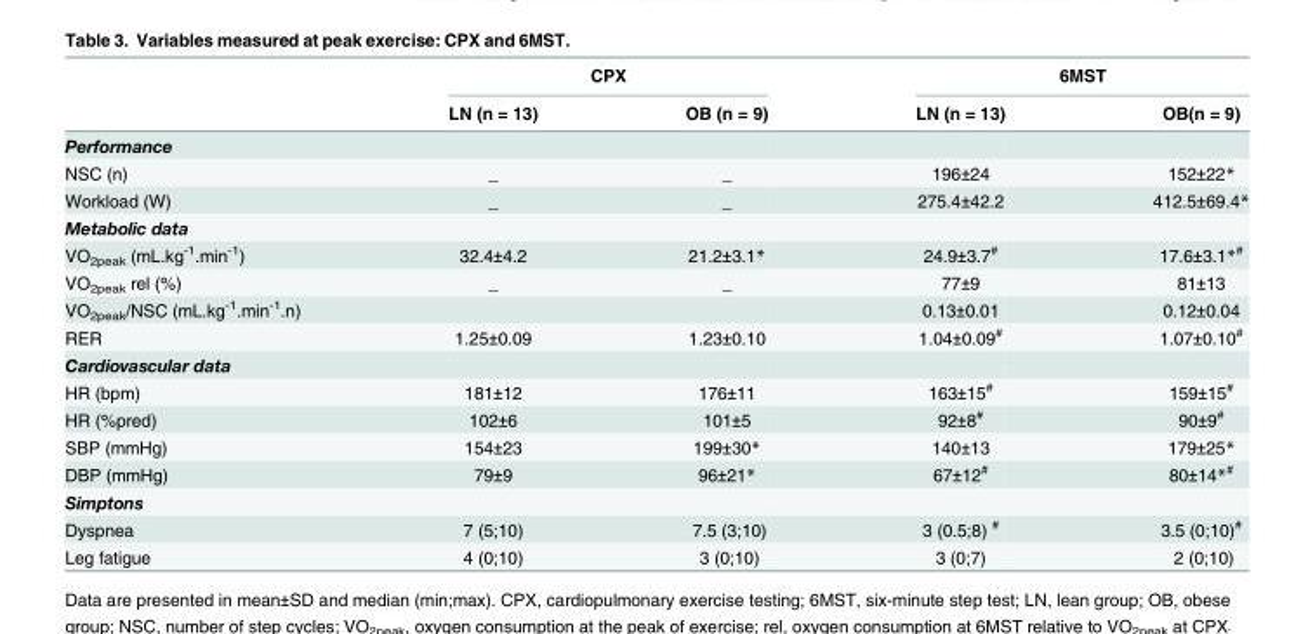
<table><thead><tr><td rowspan="2"></td><td colspan="2">CPX</td><td colspan="2">6MST</td></tr><tr><td>LN (n = 13)</td><td>OB (n = 9)</td><td>LN (n = 13)</td><td>OB(n = 9)</td></tr></thead><tbody><tr><td colspan="5">Performance</td></tr><tr><td>NSC (n)</td><td>_</td><td>_</td><td>196±24</td><td>152±22*</td></tr><tr><td>Workload (W)</td><td>_</td><td>_</td><td>275.4±42.2</td><td>412.5±69.4*</td></tr><tr><td colspan="5">Metabolic data</td></tr><tr><td>VO<sub>2peak</sub> (mL.kg<sup>-1</sup>.min<sup>-1</sup>)</td><td>32.4±4.2</td><td>21.2±3.1*</td><td>24.9±3.7<sup>#</sup></td><td>17.6±3.1*<sup>#</sup></td></tr><tr><td>VO<sub>2peak</sub> rel (%)</td><td>_</td><td>_</td><td>77±9</td><td>81±13</td></tr><tr><td>VO<sub>2peak</sub>/NSC (mL.kg<sup>-1</sup>.min<sup>-1</sup>.n)</td><td></td><td></td><td>0.13±0.01</td><td>0.12±0.04</td></tr><tr><td>RER</td><td>1.25±0.09</td><td>1.23±0.10</td><td>1.04±0.09<sup>#</sup></td><td>1.07±0.10<sup>#</sup></td></tr><tr><td colspan="5">Cardiovascular data</td></tr><tr><td>HR (bpm)</td><td>181±12</td><td>176±11</td><td>163±15<sup>#</sup></td><td>159±15<sup>#</sup></td></tr><tr><td>HR (%pred)</td><td>102±6</td><td>101±5</td><td>92±8<sup>#</sup></td><td>90±9<sup>#</sup></td></tr><tr><td>SBP (mmHg)</td><td>154±23</td><td>199±30*</td><td>140±13</td><td>179±25*</td></tr><tr><td>DBP (mmHg)</td><td>79±9</td><td>96±21*</td><td>67±12<sup>#</sup></td><td>80±14*<sup>#</sup></td></tr><tr><td colspan="5">Simptons</td></tr><tr><td>Dyspnea</td><td>7 (5;10)</td><td>7.5 (3;10)</td><td>3 (0.5;8) <sup>#</sup></td><td>3.5 (0;10)<sup>#</sup></td></tr><tr><td>Leg fatigue</td><td>4 (0;10)</td><td>3 (0;10)</td><td>3 (0;7)</td><td>2 (0;10)</td></tr></tbody></table>